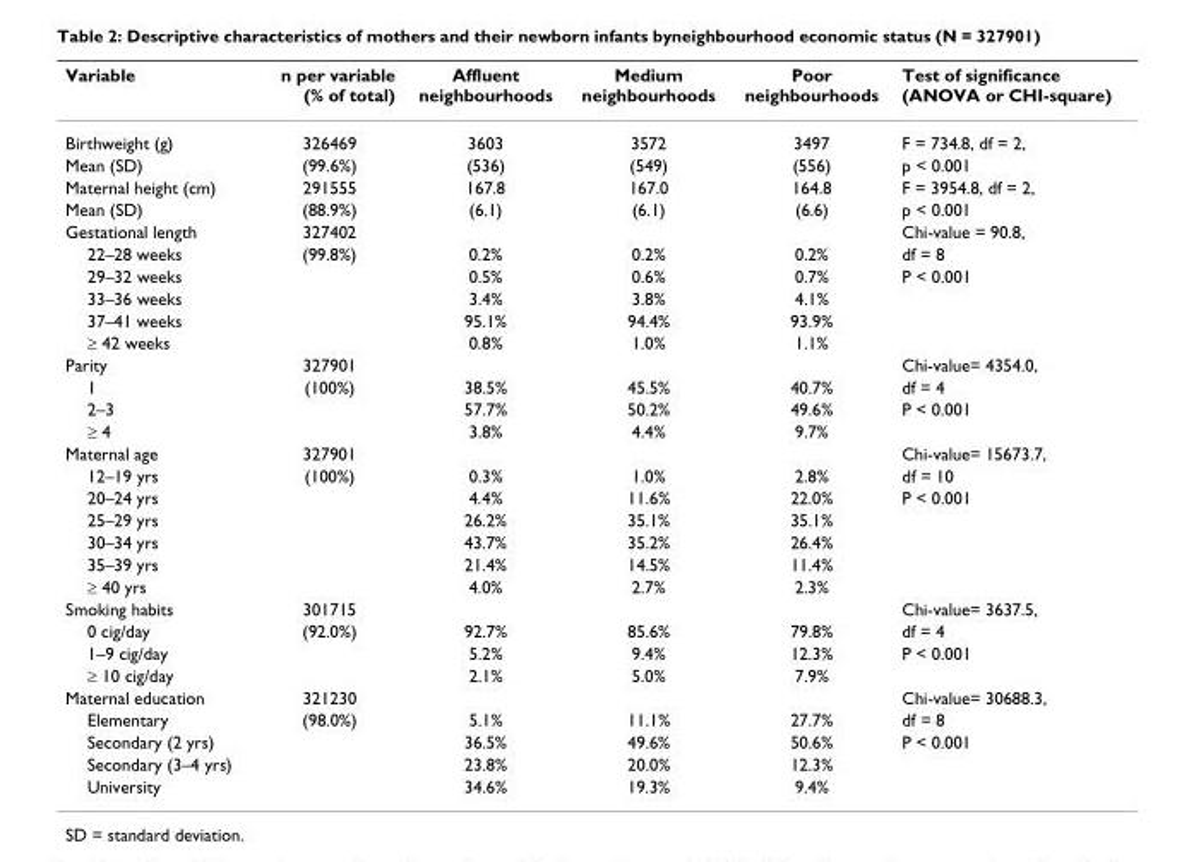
<table><thead><tr><td>Variable</td><td>n per variable (% of total)</td><td>Affluent neighbourhoods</td><td>Medium neighbourhoods</td><td>Poor neighbourhoods</td><td>Test of significance (ANOVA or CHI-square)</td></tr></thead><tbody><tr><td>Birthweight (g)</td><td>326469</td><td>3603</td><td>3572</td><td>3497</td><td>F = 734.8, df = 2,</td></tr><tr><td>Mean (SD)</td><td>(99.6%)</td><td>(536)</td><td>(549)</td><td>(556)</td><td>p &lt; 0.001</td></tr><tr><td>Maternal height (cm)</td><td>291555</td><td>167.8</td><td>167.0</td><td>164.8</td><td>F = 3954.8, df = 2,</td></tr><tr><td>Mean (SD)</td><td>(88.9%)</td><td>(6.1)</td><td>(6.1)</td><td>(6.6)</td><td>p &lt; 0.001</td></tr><tr><td>Gestational length</td><td>327402</td><td></td><td></td><td></td><td>Chi-value = 90.8,</td></tr><tr><td>22–28 weeks</td><td>(99.8%)</td><td>0.2%</td><td>0.2%</td><td>0.2%</td><td>df = 8</td></tr><tr><td>29–32 weeks</td><td></td><td>0.5%</td><td>0.6%</td><td>0.7%</td><td>P &lt; 0.001</td></tr><tr><td>33–36 weeks</td><td></td><td>3.4%</td><td>3.8%</td><td>4.1%</td><td></td></tr><tr><td>37–41 weeks</td><td></td><td>95.1%</td><td>94.4%</td><td>93.9%</td><td></td></tr><tr><td>≥ 42 weeks</td><td></td><td>0.8%</td><td>1.0%</td><td>1.1%</td><td></td></tr><tr><td>Parity</td><td>327901</td><td></td><td></td><td></td><td>Chi-value= 4354.0,</td></tr><tr><td>1</td><td>(100%)</td><td>38.5%</td><td>45.5%</td><td>40.7%</td><td>df = 4</td></tr><tr><td>2–3</td><td></td><td>57.7%</td><td>50.2%</td><td>49.6%</td><td>P &lt; 0.001</td></tr><tr><td>≥ 4</td><td></td><td>3.8%</td><td>4.4%</td><td>9.7%</td><td></td></tr><tr><td>Maternal age</td><td>327901</td><td></td><td></td><td></td><td>Chi-value= 15673.7,</td></tr><tr><td>12–19 yrs</td><td>(100%)</td><td>0.3%</td><td>1.0%</td><td>2.8%</td><td>df = 10</td></tr><tr><td>20–24 yrs</td><td></td><td>4.4%</td><td>11.6%</td><td>22.0%</td><td>P &lt; 0.001</td></tr><tr><td>25–29 yrs</td><td></td><td>26.2%</td><td>35.1%</td><td>35.1%</td><td></td></tr><tr><td>30–34 yrs</td><td></td><td>43.7%</td><td>35.2%</td><td>26.4%</td><td></td></tr><tr><td>35–39 yrs</td><td></td><td>21.4%</td><td>14.5%</td><td>11.4%</td><td></td></tr><tr><td>≥ 40 yrs</td><td></td><td>4.0%</td><td>2.7%</td><td>2.3%</td><td></td></tr><tr><td>Smoking habits</td><td>301715</td><td></td><td></td><td></td><td>Chi-value= 3637.5,</td></tr><tr><td>0 cig/day</td><td>(92.0%)</td><td>92.7%</td><td>85.6%</td><td>79.8%</td><td>df = 4</td></tr><tr><td>1–9 cig/day</td><td></td><td>5.2%</td><td>9.4%</td><td>12.3%</td><td>P &lt; 0.001</td></tr><tr><td>≥ 10 cig/day</td><td></td><td>2.1%</td><td>5.0%</td><td>7.9%</td><td></td></tr><tr><td>Maternal education</td><td>321230</td><td></td><td></td><td></td><td>Chi-value= 30688.3,</td></tr><tr><td>Elementary</td><td>(98.0%)</td><td>5.1%</td><td>11.1%</td><td>27.7%</td><td>df = 8</td></tr><tr><td>Secondary (2 yrs)</td><td></td><td>36.5%</td><td>49.6%</td><td>50.6%</td><td>P &lt; 0.001</td></tr><tr><td>Secondary (3–4 yrs)</td><td></td><td>23.8%</td><td>20.0%</td><td>12.3%</td><td></td></tr><tr><td>University</td><td></td><td>34.6%</td><td>19.3%</td><td>9.4%</td><td></td></tr></tbody></table>